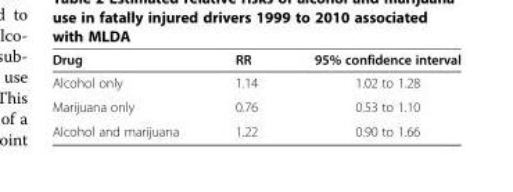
<table><thead><tr><td>Drug</td><td>RR</td><td>95% confidence interval</td></tr></thead><tbody><tr><td>Alcohol only</td><td>1.14</td><td>1.02 to 1.28</td></tr><tr><td>Marijuana only</td><td>0.76</td><td>0.53 to 1.10</td></tr><tr><td>Alcohol and marijuana</td><td>1.22</td><td>0.90 to 1.66</td></tr></tbody></table>